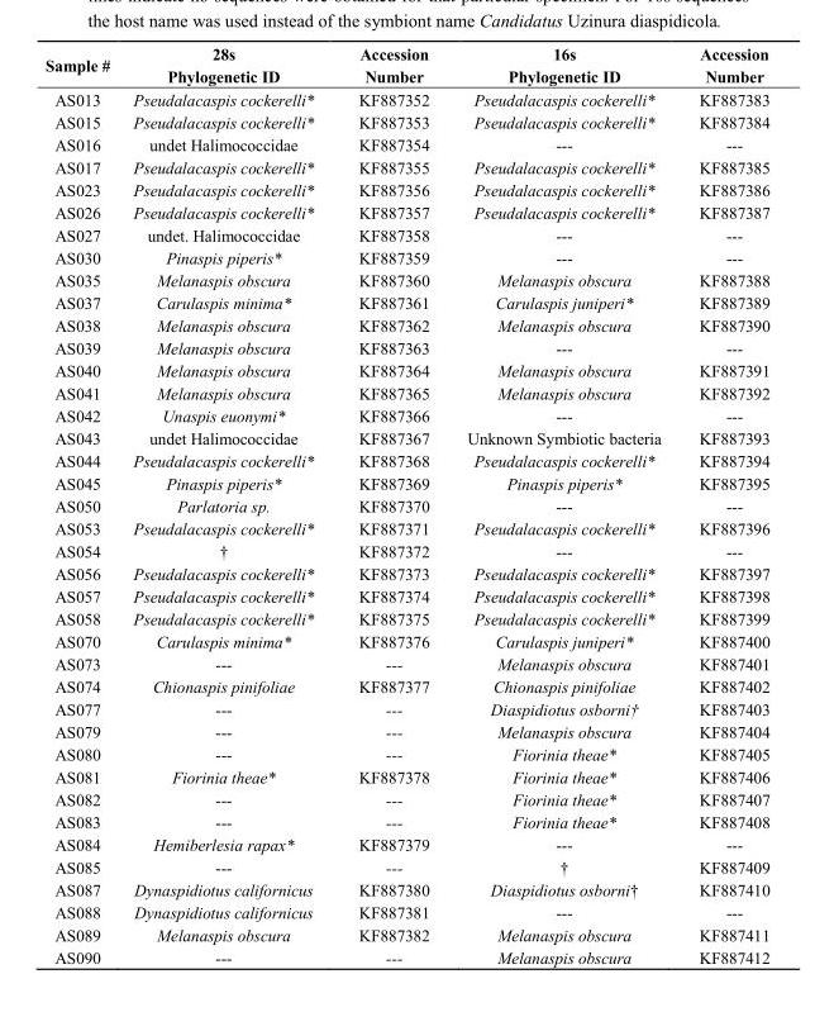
<table><thead><tr><td rowspan="2">Sample #</td><td rowspan="2">28s Phylogenetic ID</td><td rowspan="2">Accession Number</td><td rowspan="2">16s Phylogenetic ID</td><td rowspan="2">Accession Number</td></tr><tr></tr></thead><tbody><tr><td>AS013</td><td>Pseudalacaspis cockerelli*</td><td>KF887352</td><td>Pseudalacaspis cockerelli*</td><td>KF887383</td></tr><tr><td>AS015</td><td>Pseudalacaspis cockerelli*</td><td>KF887353</td><td>Pseudalacaspis cockerelli*</td><td>KF887384</td></tr><tr><td>AS016</td><td>undet Halimococcidae</td><td>KF887354</td><td>---</td><td>---</td></tr><tr><td>AS017</td><td>Pseudalacaspis cockerelli*</td><td>KF887355</td><td>Pseudalacaspis cockerelli*</td><td>KF887385</td></tr><tr><td>AS023</td><td>Pseudalacaspis cockerelli*</td><td>KF887356</td><td>Pseudalacaspis cockerelli*</td><td>KF887386</td></tr><tr><td>AS026</td><td>Pseudalacaspis cockerelli*</td><td>KF887357</td><td>Pseudalacaspis cockerelli*</td><td>KF887387</td></tr><tr><td>AS027</td><td>undet. Halimococcidae</td><td>KF887358</td><td>---</td><td>---</td></tr><tr><td>AS030</td><td>Pinaspis piperis*</td><td>KF887359</td><td>---</td><td>---</td></tr><tr><td>AS035</td><td>Melanaspis obscura</td><td>KF887360</td><td>Melanaspis obscura</td><td>KF887388</td></tr><tr><td>AS037</td><td>Carulaspis minima*</td><td>KF887361</td><td>Carulaspis juniperi*</td><td>KF887389</td></tr><tr><td>AS038</td><td>Melanaspis obscura</td><td>KF887362</td><td>Melanaspis obscura</td><td>KF887390</td></tr><tr><td>AS039</td><td>Melanaspis obscura</td><td>KF887363</td><td>---</td><td>---</td></tr><tr><td>AS040</td><td>Melanaspis obscura</td><td>KF887364</td><td>Melanaspis obscura</td><td>KF887391</td></tr><tr><td>AS041</td><td>Melanaspis obscura</td><td>KF887365</td><td>Melanaspis obscura</td><td>KF887392</td></tr><tr><td>AS042</td><td>Unaspis euonymi*</td><td>KF887366</td><td>---</td><td>---</td></tr><tr><td>AS043</td><td>undet Halimococcidae</td><td>KF887367</td><td>Unknown Symbiotic bacteria</td><td>KF887393</td></tr><tr><td>AS044</td><td>Pseudalacaspis cockerelli*</td><td>KF887368</td><td>Pseudalacaspis cockerelli*</td><td>KF887394</td></tr><tr><td>AS045</td><td>Pinaspis piperis*</td><td>KF887369</td><td>Pinaspis piperis*</td><td>KF887395</td></tr><tr><td>AS050</td><td>Parlatoria sp.</td><td>KF887370</td><td>---</td><td>---</td></tr><tr><td>AS053</td><td>Pseudalacaspis cockerelli*</td><td>KF887371</td><td>Pseudalacaspis cockerelli*</td><td>KF887396</td></tr><tr><td>AS054</td><td>†</td><td>KF887372</td><td>---</td><td>---</td></tr><tr><td>AS056</td><td>Pseudalacaspis cockerelli*</td><td>KF887373</td><td>Pseudalacaspis cockerelli*</td><td>KF887397</td></tr><tr><td>AS057</td><td>Pseudalacaspis cockerelli*</td><td>KF887374</td><td>Pseudalacaspis cockerelli*</td><td>KF887398</td></tr><tr><td>AS058</td><td>Pseudalacaspis cockerelli*</td><td>KF887375</td><td>Pseudalacaspis cockerelli*</td><td>KF887399</td></tr><tr><td>AS070</td><td>Carulaspis minima*</td><td>KF887376</td><td>Carulaspis juniperi*</td><td>KF887400</td></tr><tr><td>AS073</td><td>---</td><td>---</td><td>Melanaspis obscura</td><td>KF887401</td></tr><tr><td>AS074</td><td>Chionaspis pinifoliae</td><td>KF887377</td><td>Chionaspis pinifoliae</td><td>KF887402</td></tr><tr><td>AS077</td><td>---</td><td>---</td><td>Diaspidiotus osborni†</td><td>KF887403</td></tr><tr><td>AS079</td><td>---</td><td>---</td><td>Melanaspis obscura</td><td>KF887404</td></tr><tr><td>AS080</td><td>---</td><td>---</td><td>Fiorinia theae*</td><td>KF887405</td></tr><tr><td>AS081</td><td>Fiorinia theae*</td><td>KF887378</td><td>Fiorinia theae*</td><td>KF887406</td></tr><tr><td>AS082</td><td>---</td><td>---</td><td>Fiorinia theae*</td><td>KF887407</td></tr><tr><td>AS083</td><td>---</td><td>---</td><td>Fiorinia theae*</td><td>KF887408</td></tr><tr><td>AS084</td><td>Hemiberlesia rapax*</td><td>KF887379</td><td>---</td><td>---</td></tr><tr><td>AS085</td><td>---</td><td>---</td><td>†</td><td>KF887409</td></tr><tr><td>AS087</td><td>Dynaspidiotus californicus</td><td>KF887380</td><td>Diaspidiotus osborni†</td><td>KF887410</td></tr><tr><td>AS088</td><td>Dynaspidiotus californicus</td><td>KF887381</td><td>---</td><td>---</td></tr><tr><td>AS089</td><td>Melanaspis obscura</td><td>KF887382</td><td>Melanaspis obscura</td><td>KF887411</td></tr><tr><td>AS090</td><td>---</td><td>---</td><td>Melanaspis obscura</td><td>KF887412</td></tr></tbody></table>